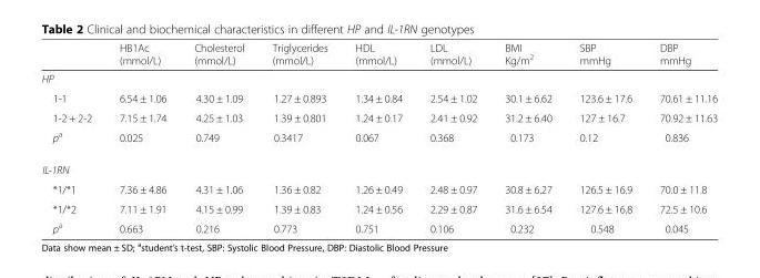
<table><thead><tr><td></td><td>HB1Ac (mmol/L)</td><td>Cholesterol (mmol/L)</td><td>Triglycerides (mmol/L)</td><td>HDL (mmol/L)</td><td>LDL (mmol/L)</td><td>BMI Kg/m<sup>2</sup></td><td>SBP mmHg</td><td>DBP mmHg</td></tr></thead><tbody><tr><td colspan="9">HP</td></tr><tr><td>1-1</td><td>6.54 ± 1.06</td><td>4.30 ± 1.09</td><td>1.27 ± 0.893</td><td>1.34 ± 0.84</td><td>2.54 ± 1.02</td><td>30.1 ± 6.62</td><td>123.6 ± 17.6</td><td>70.61 ± 11.16</td></tr><tr><td>1-2 + 2-2</td><td>7.15 ± 1.74</td><td>4.25 ± 1.03</td><td>1.39 ± 0.801</td><td>1.24 ± 0.17</td><td>2.41 ± 0.92</td><td>31.2 ± 6.40</td><td>127 ± 16.7</td><td>70.92 ± 11.63</td></tr><tr><td>p<sup>a</sup></td><td>0.025</td><td>0.749</td><td>0.3417</td><td>0.067</td><td>0.368</td><td>0.173</td><td>0.12</td><td>0.836</td></tr><tr><td colspan="9">IL-1RN</td></tr><tr><td>*1/*1</td><td>7.36 ± 4.86</td><td>4.31 ± 1.06</td><td>1.36 ± 0.82</td><td>1.26 ± 0.49</td><td>2.48 ± 0.97</td><td>30.8 ± 6.27</td><td>126.5 ± 16.9</td><td>70.0 ± 11.8</td></tr><tr><td>*1/*2</td><td>7.11 ± 1.91</td><td>4.15 ± 0.99</td><td>1.39 ± 0.83</td><td>1.24 ± 0.56</td><td>2.29 ± 0.87</td><td>31.6 ± 6.54</td><td>127.6 ± 16.8</td><td>72.5 ± 10.6</td></tr><tr><td>p<sup>a</sup></td><td>0.663</td><td>0.216</td><td>0.773</td><td>0.751</td><td>0.106</td><td>0.232</td><td>0.548</td><td>0.045</td></tr></tbody></table>